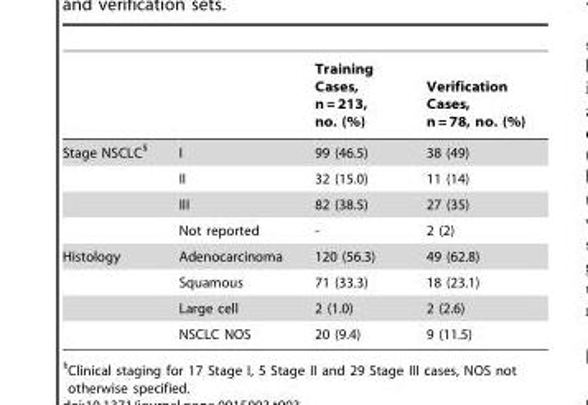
<table><thead><tr><td></td><td></td><td>Training Cases, n = 213, no. (%)</td><td>Verification Cases, n = 78, no. (%)</td></tr></thead><tbody><tr><td rowspan="4">Stage NSCLC§</td><td>I</td><td>99 (46.5)</td><td>38 (49)</td></tr><tr><td>II</td><td>32 (15.0)</td><td>11 (14)</td></tr><tr><td>III</td><td>82 (38.5)</td><td>27 (35)</td></tr><tr><td>Not reported</td><td>-</td><td>2 (2)</td></tr><tr><td rowspan="4">Histology</td><td>Adenocarcinoma</td><td>120 (56.3)</td><td>49 (62.8)</td></tr><tr><td>Squamous</td><td>71 (33.3)</td><td>18 (23.1)</td></tr><tr><td>Large cell</td><td>2 (1.0)</td><td>2 (2.6)</td></tr><tr><td>NSCLC NOS</td><td>20 (9.4)</td><td>9 (11.5)</td></tr></tbody></table>